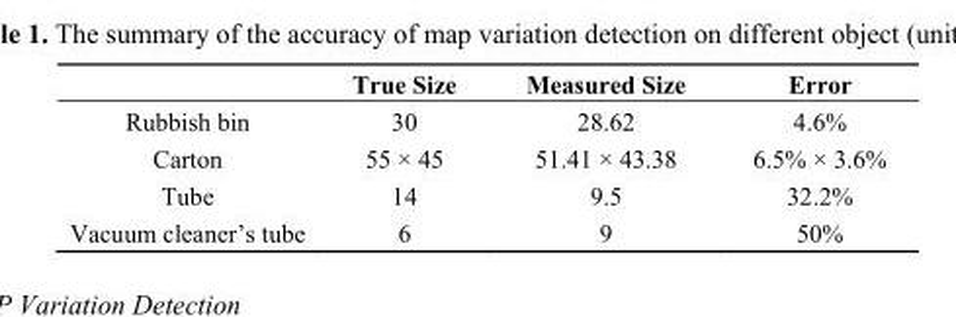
<table><thead><tr><td></td><td>True Size</td><td>Measured Size</td><td>Error</td></tr></thead><tbody><tr><td>Rubbish bin</td><td>30</td><td>28.62</td><td>4.6%</td></tr><tr><td>Carton</td><td>55 × 45</td><td>51.41 × 43.38</td><td>6.5% × 3.6%</td></tr><tr><td>Tube</td><td>14</td><td>9.5</td><td>32.2%</td></tr><tr><td>Vacuum cleaner’s tube</td><td>6</td><td>9</td><td>50%</td></tr></tbody></table>